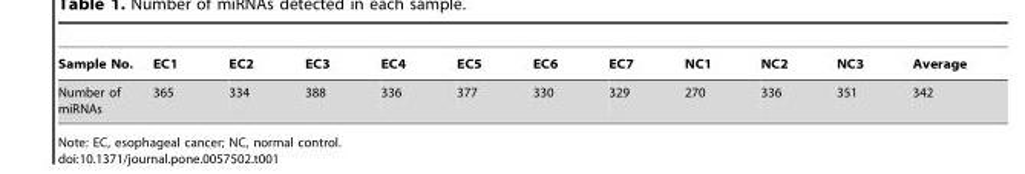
<table><thead><tr><td>Sample No.</td><td>EC1</td><td>EC2</td><td>EC3</td><td>EC4</td><td>EC5</td><td>EC6</td><td>EC7</td><td>NC1</td><td>NC2</td><td>NC3</td><td>Average</td></tr></thead><tbody><tr><td>Number of miRNAs</td><td>365</td><td>334</td><td>388</td><td>336</td><td>377</td><td>330</td><td>329</td><td>270</td><td>336</td><td>351</td><td>342</td></tr></tbody></table>